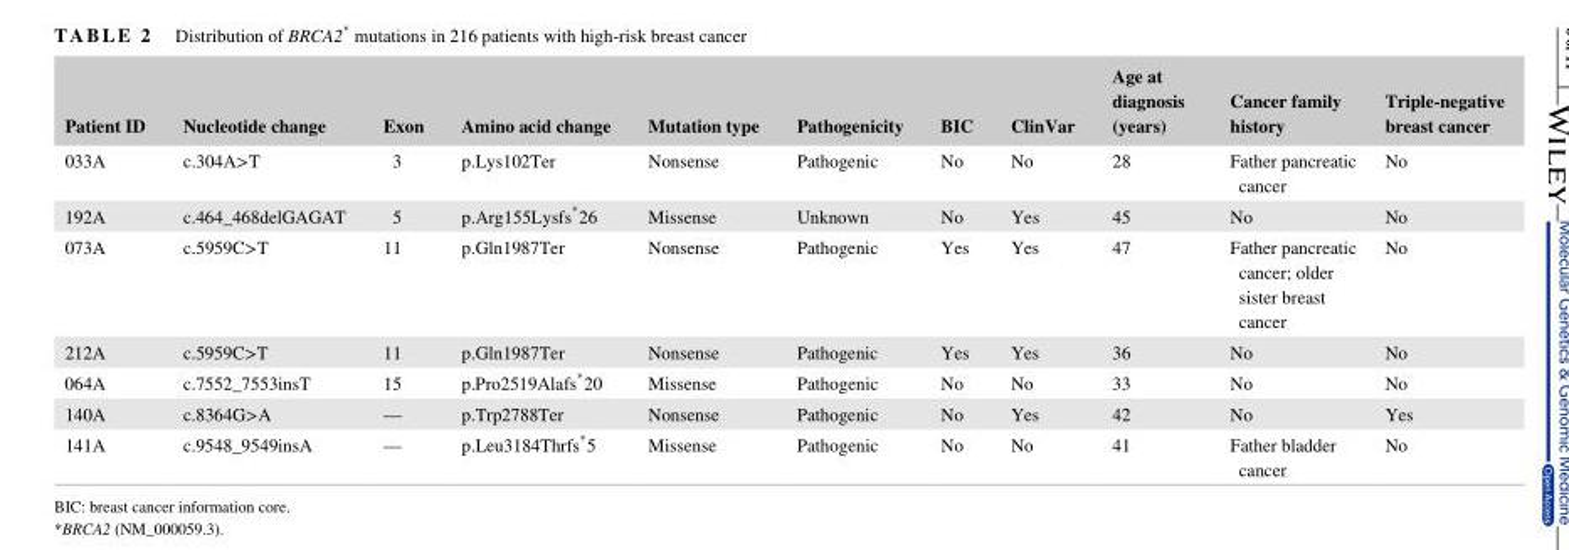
<table><thead><tr><td>Patient ID</td><td>Nucleotide change</td><td>Exon</td><td>Amino acid change</td><td>Mutation type</td><td>Pathogenicity</td><td>BIC</td><td>ClinVar</td><td>Age at diagnosis (years)</td><td>Cancer family history</td><td>Triple‐negative breast cancer</td></tr></thead><tbody><tr><td>033A</td><td>c.304A&gt;T</td><td>3</td><td>p.Lys102Ter</td><td>Nonsense</td><td>Pathogenic</td><td>No</td><td>No</td><td>28</td><td>Father pancreatic cancer</td><td>No</td></tr><tr><td>192A</td><td>c.464_468delGAGAT</td><td>5</td><td>p.Arg155Lysfs* 26</td><td>Missense</td><td>Unknown</td><td>No</td><td>Yes</td><td>45</td><td>No</td><td>No</td></tr><tr><td>073A</td><td>c.5959C&gt;T</td><td>11</td><td>p.Gln1987Ter</td><td>Nonsense</td><td>Pathogenic</td><td>Yes</td><td>Yes</td><td>47</td><td>Father pancreatic cancer; older sister breast cancer</td><td>No</td></tr><tr><td>212A</td><td>c.5959C&gt;T</td><td>11</td><td>p.Gln1987Ter</td><td>Nonsense</td><td>Pathogenic</td><td>Yes</td><td>Yes</td><td>36</td><td>No</td><td>No</td></tr><tr><td>064A</td><td>c.7552_7553insT</td><td>15</td><td>p.Pro2519Alafs* 20</td><td>Missense</td><td>Pathogenic</td><td>No</td><td>No</td><td>33</td><td>No</td><td>No</td></tr><tr><td>140A</td><td>c.8364G&gt;A</td><td>—</td><td>p.Trp2788Ter</td><td>Nonsense</td><td>Pathogenic</td><td>No</td><td>Yes</td><td>42</td><td>No</td><td>Yes</td></tr><tr><td>141A</td><td>c.9548_9549insA</td><td>—</td><td>p.Leu3184Thrfs* 5</td><td>Missense</td><td>Pathogenic</td><td>No</td><td>No</td><td>41</td><td>Father bladder cancer</td><td>No</td></tr></tbody></table>